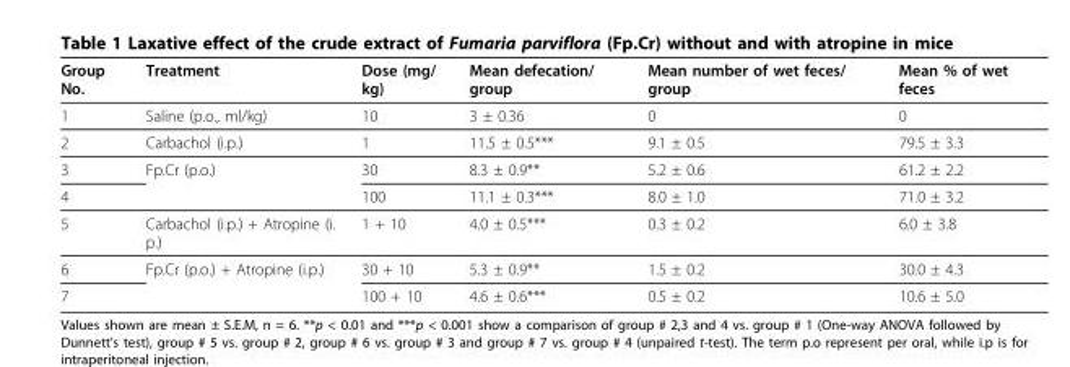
<table><thead><tr><td>Group No.</td><td>Treatment</td><td>Dose (mg/ kg)</td><td>Mean defecation/ group</td><td>Mean number of wet feces/ group</td><td>Mean % of wet feces</td></tr></thead><tbody><tr><td>1</td><td>Saline (p.o., ml/kg)</td><td>10</td><td>3 ± 0.36</td><td>0</td><td>0</td></tr><tr><td>2</td><td>Carbachol (i.p.)</td><td>1</td><td>11.5 ± 0.5***</td><td>9.1 ± 0.5</td><td>79.5 ± 3.3</td></tr><tr><td>3</td><td>Fp.Cr (p.o.)</td><td>30</td><td>8.3 ± 0.9**</td><td>5.2 ± 0.6</td><td>61.2 ± 2.2</td></tr><tr><td>4</td><td></td><td>100</td><td>11.1 ± 0.3***</td><td>8.0 ± 1.0</td><td>71.0 ± 3.2</td></tr><tr><td>5</td><td>Carbachol (i.p.) + Atropine (i. p.)</td><td>1 + 10</td><td>4.0 ± 0.5***</td><td>0.3 ± 0.2</td><td>6.0 ± 3.8</td></tr><tr><td>6</td><td>Fp.Cr (p.o.) + Atropine (i.p.)</td><td>30 + 10</td><td>5.3 ± 0.9**</td><td>1.5 ± 0.2</td><td>30.0 ± 4.3</td></tr><tr><td>7</td><td></td><td>100 + 10</td><td>4.6 ± 0.6***</td><td>0.5 ± 0.2</td><td>10.6 ± 5.0</td></tr></tbody></table>